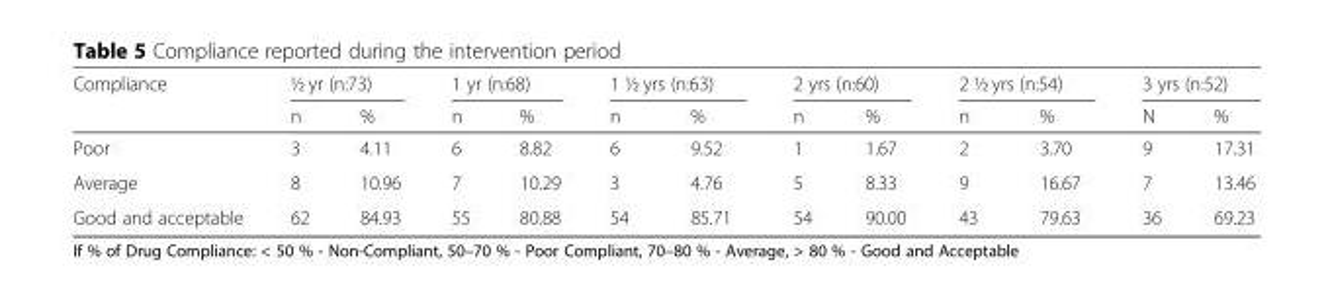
<table><thead><tr><td rowspan="2">Compliance</td><td colspan="2">½ yr (n:73)</td><td colspan="2">1 yr (n:68)</td><td colspan="2">1 ½ yrs (n:63)</td><td colspan="2">2 yrs (n:60)</td><td colspan="2">2 ½ yrs (n:54)</td><td colspan="2">3 yrs (n:52)</td></tr><tr><td>n</td><td>%</td><td>n</td><td>%</td><td>n</td><td>%</td><td>n</td><td>%</td><td>n</td><td>%</td><td>N</td><td>%</td></tr></thead><tbody><tr><td>Poor</td><td>3</td><td>4.11</td><td>6</td><td>8.82</td><td>6</td><td>9.52</td><td>1</td><td>1.67</td><td>2</td><td>3.70</td><td>9</td><td>17.31</td></tr><tr><td>Average</td><td>8</td><td>10.96</td><td>7</td><td>10.29</td><td>3</td><td>4.76</td><td>5</td><td>8.33</td><td>9</td><td>16.67</td><td>7</td><td>13.46</td></tr><tr><td>Good and acceptable</td><td>62</td><td>84.93</td><td>55</td><td>80.88</td><td>54</td><td>85.71</td><td>54</td><td>90.00</td><td>43</td><td>79.63</td><td>36</td><td>69.23</td></tr></tbody></table>